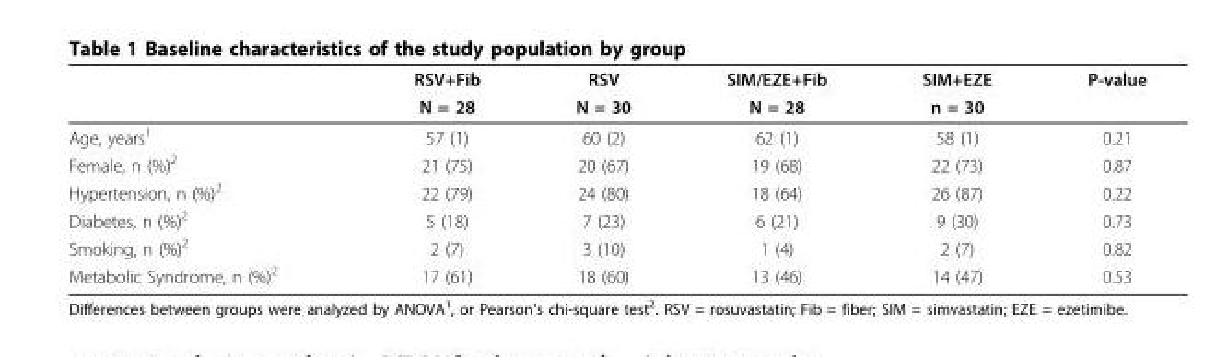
<table><thead><tr><td rowspan="2"></td><td rowspan="2">RSV+Fib N = 28</td><td rowspan="2">RSV N = 30</td><td rowspan="2">SIM/EZE+Fib N = 28</td><td rowspan="2">SIM+EZE n = 30</td><td rowspan="2">P-value</td></tr><tr></tr></thead><tbody><tr><td>Age, years<sup>1</sup></td><td>57 (1)</td><td>60 (2)</td><td>62 (1)</td><td>58 (1)</td><td>0.21</td></tr><tr><td>Female, n (%)<sup>2</sup></td><td>21 (75)</td><td>20 (67)</td><td>19 (68)</td><td>22 (73)</td><td>0.87</td></tr><tr><td>Hypertension, n (%)<sup>2</sup></td><td>22 (79)</td><td>24 (80)</td><td>18 (64)</td><td>26 (87)</td><td>0.22</td></tr><tr><td>Diabetes, n (%)<sup>2</sup></td><td>5 (18)</td><td>7 (23)</td><td>6 (21)</td><td>9 (30)</td><td>0.73</td></tr><tr><td>Smoking, n (%)<sup>2</sup></td><td>2 (7)</td><td>3 (10)</td><td>1 (4)</td><td>2 (7)</td><td>0.82</td></tr><tr><td>Metabolic Syndrome, n (%)<sup>2</sup></td><td>17 (61)</td><td>18 (60)</td><td>13 (46)</td><td>14 (47)</td><td>0.53</td></tr></tbody></table>